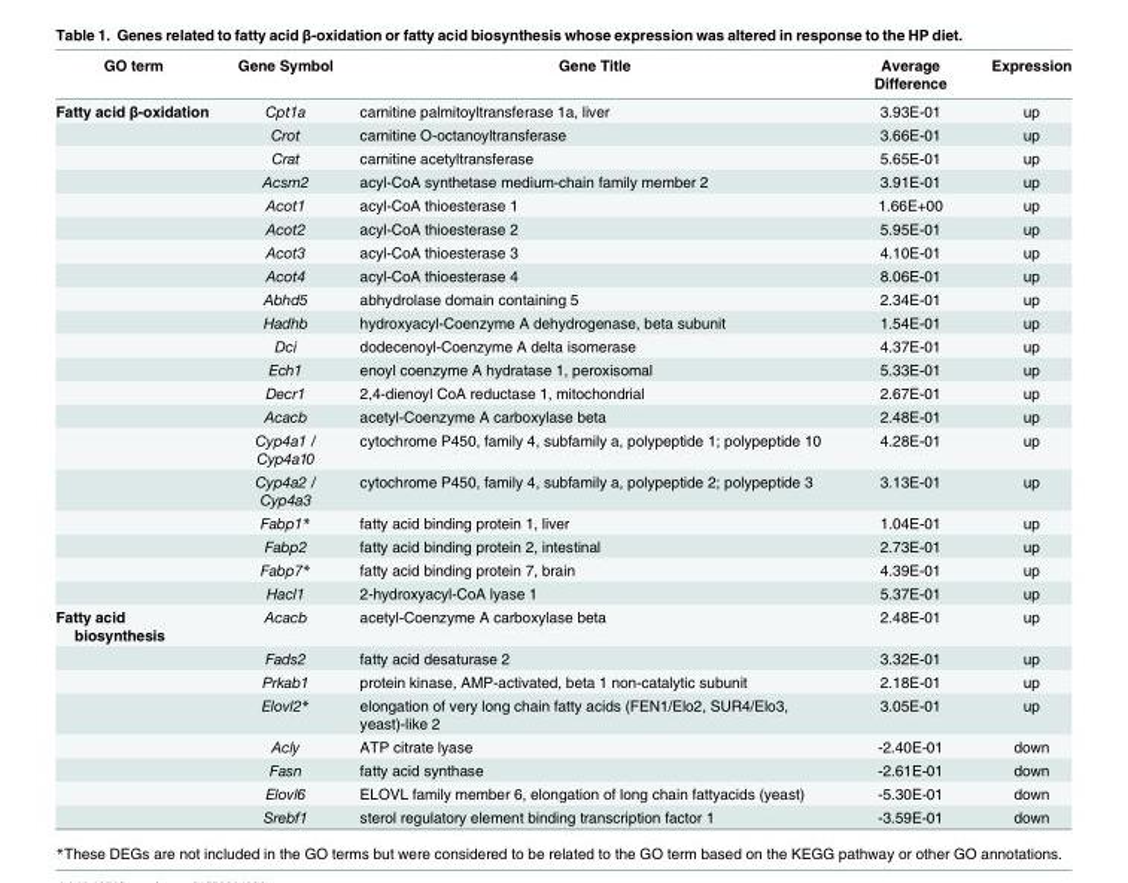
<table><thead><tr><td>GO term</td><td>Gene Symbol</td><td>Gene Title</td><td>Average Difference</td><td>Expression</td></tr></thead><tbody><tr><td rowspan="20">Fatty acid β-oxidation</td><td>Cpt1a</td><td>carnitine palmitoyltransferase 1a, liver</td><td>3.93E-01</td><td>up</td></tr><tr><td>Crot</td><td>carnitine O-octanoyltransferase</td><td>3.66E-01</td><td>up</td></tr><tr><td>Crat</td><td>carnitine acetyltransferase</td><td>5.65E-01</td><td>up</td></tr><tr><td>Acsm2</td><td>acyl-CoA synthetase medium-chain family member 2</td><td>3.91E-01</td><td>up</td></tr><tr><td>Acot1</td><td>acyl-CoA thioesterase 1</td><td>1.66E+00</td><td>up</td></tr><tr><td>Acot2</td><td>acyl-CoA thioesterase 2</td><td>5.95E-01</td><td>up</td></tr><tr><td>Acot3</td><td>acyl-CoA thioesterase 3</td><td>4.10E-01</td><td>up</td></tr><tr><td>Acot4</td><td>acyl-CoA thioesterase 4</td><td>8.06E-01</td><td>up</td></tr><tr><td>Abhd5</td><td>abhydrolase domain containing 5</td><td>2.34E-01</td><td>up</td></tr><tr><td>Hadhb</td><td>hydroxyacyl-Coenzyme A dehydrogenase, beta subunit</td><td>1.54E-01</td><td>up</td></tr><tr><td>Dci</td><td>dodecenoyl-Coenzyme A delta isomerase</td><td>4.37E-01</td><td>up</td></tr><tr><td>Ech1</td><td>enoyl coenzyme A hydratase 1, peroxisomal</td><td>5.33E-01</td><td>up</td></tr><tr><td>Decr1</td><td>2,4-dienoyl CoA reductase 1, mitochondrial</td><td>2.67E-01</td><td>up</td></tr><tr><td>Acacb</td><td>acetyl-Coenzyme A carboxylase beta</td><td>2.48E-01</td><td>up</td></tr><tr><td>Cyp4a1 / Cyp4a10</td><td>cytochrome P450, family 4, subfamily a, polypeptide 1; polypeptide 10</td><td>4.28E-01</td><td>up</td></tr><tr><td>Cyp4a2 / Cyp4a3</td><td>cytochrome P450, family 4, subfamily a, polypeptide 2; polypeptide 3</td><td>3.13E-01</td><td>up</td></tr><tr><td>Fabp1*</td><td>fatty acid binding protein 1, liver</td><td>1.04E-01</td><td>up</td></tr><tr><td>Fabp2</td><td>fatty acid binding protein 2, intestinal</td><td>2.73E-01</td><td>up</td></tr><tr><td>Fabp7*</td><td>fatty acid binding protein 7, brain</td><td>4.39E-01</td><td>up</td></tr><tr><td>Hacl1</td><td>2-hydroxyacyl-CoA lyase 1</td><td>5.37E-01</td><td>up</td></tr><tr><td rowspan="8">Fatty acid biosynthesis</td><td>Acacb</td><td>acetyl-Coenzyme A carboxylase beta</td><td>2.48E-01</td><td>up</td></tr><tr><td>Fads2</td><td>fatty acid desaturase 2</td><td>3.32E-01</td><td>up</td></tr><tr><td>Prkab1</td><td>protein kinase, AMP-activated, beta 1 non-catalytic subunit</td><td>2.18E-01</td><td>up</td></tr><tr><td>Elovl2*</td><td>elongation of very long chain fatty acids (FEN1/Elo2, SUR4/Elo3, yeast)-like 2</td><td>3.05E-01</td><td>up</td></tr><tr><td>Acly</td><td>ATP citrate lyase</td><td>-2.40E-01</td><td>down</td></tr><tr><td>Fasn</td><td>fatty acid synthase</td><td>-2.61E-01</td><td>down</td></tr><tr><td>Elovl6</td><td>ELOVL family member 6, elongation of long chain fattyacids (yeast)</td><td>-5.30E-01</td><td>down</td></tr><tr><td>Srebf1</td><td>sterol regulatory element binding transcription factor 1</td><td>-3.59E-01</td><td>down</td></tr></tbody></table>